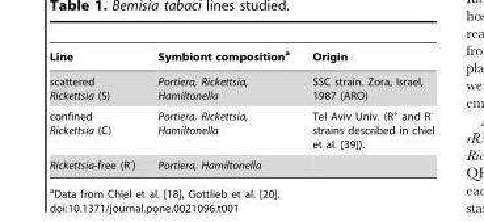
<table><thead><tr><td>Line</td><td>Symbiont composition<sup>a</sup></td><td>Origin</td></tr></thead><tbody><tr><td>scattered Rickettsia (S)</td><td>Portiera, Rickettsia, Hamiltonella</td><td>SSC strain. Zora, Israel, 1987 (ARO)</td></tr><tr><td>confined Rickettsia (C)</td><td>Portiera, Rickettsia, Hamiltonella</td><td>Tel Aviv Univ. (R<sup>+</sup> and R<sup>-</sup> strains described in chiel et al. [39]).</td></tr><tr><td>Rickettsia-free (R<sup>-</sup>)</td><td>Portiera, Hamiltonella</td><td></td></tr></tbody></table>